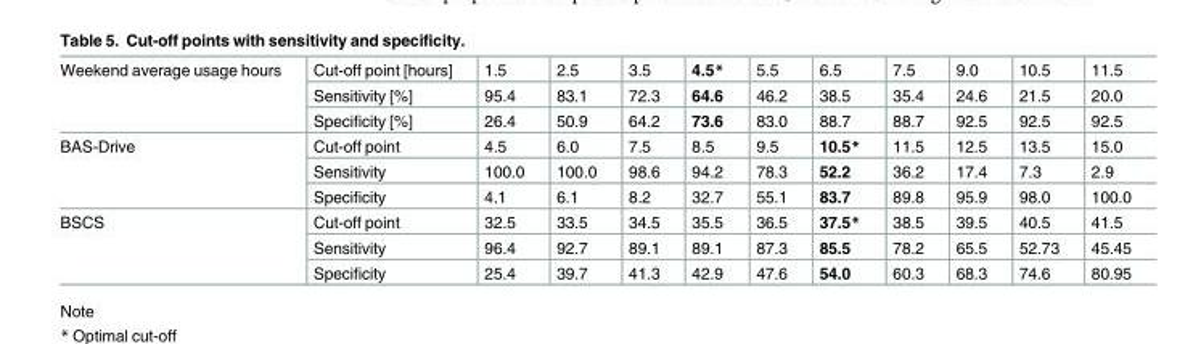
<table><tbody><tr><td rowspan="3">Weekend average usage hours</td><td>Cut-off point [hours]</td><td>1.5</td><td>2.5</td><td>3.5</td><td>4.5*</td><td>5.5</td><td>6.5</td><td>7.5</td><td>9.0</td><td>10.5</td><td>11.5</td></tr><tr><td>Sensitivity [%]</td><td>95.4</td><td>83.1</td><td>72.3</td><td>64.6</td><td>46.2</td><td>38.5</td><td>35.4</td><td>24.6</td><td>21.5</td><td>20.0</td></tr><tr><td>Specificity [%]</td><td>26.4</td><td>50.9</td><td>64.2</td><td>73.6</td><td>83.0</td><td>88.7</td><td>88.7</td><td>92.5</td><td>92.5</td><td>92.5</td></tr><tr><td rowspan="3">BAS-Drive</td><td>Cut-off point</td><td>4.5</td><td>6.0</td><td>7.5</td><td>8.5</td><td>9.5</td><td>10.5*</td><td>11.5</td><td>12.5</td><td>13.5</td><td>15.0</td></tr><tr><td>Sensitivity</td><td>100.0</td><td>100.0</td><td>98.6</td><td>94.2</td><td>78.3</td><td>52.2</td><td>36.2</td><td>17.4</td><td>7.3</td><td>2.9</td></tr><tr><td>Specificity</td><td>4.1</td><td>6.1</td><td>8.2</td><td>32.7</td><td>55.1</td><td>83.7</td><td>89.8</td><td>95.9</td><td>98.0</td><td>100.0</td></tr><tr><td rowspan="3">BSCS</td><td>Cut-off point</td><td>32.5</td><td>33.5</td><td>34.5</td><td>35.5</td><td>36.5</td><td>37.5*</td><td>38.5</td><td>39.5</td><td>40.5</td><td>41.5</td></tr><tr><td>Sensitivity</td><td>96.4</td><td>92.7</td><td>89.1</td><td>89.1</td><td>87.3</td><td>85.5</td><td>78.2</td><td>65.5</td><td>52.73</td><td>45.45</td></tr><tr><td>Specificity</td><td>25.4</td><td>39.7</td><td>41.3</td><td>42.9</td><td>47.6</td><td>54.0</td><td>60.3</td><td>68.3</td><td>74.6</td><td>80.95</td></tr></tbody></table>